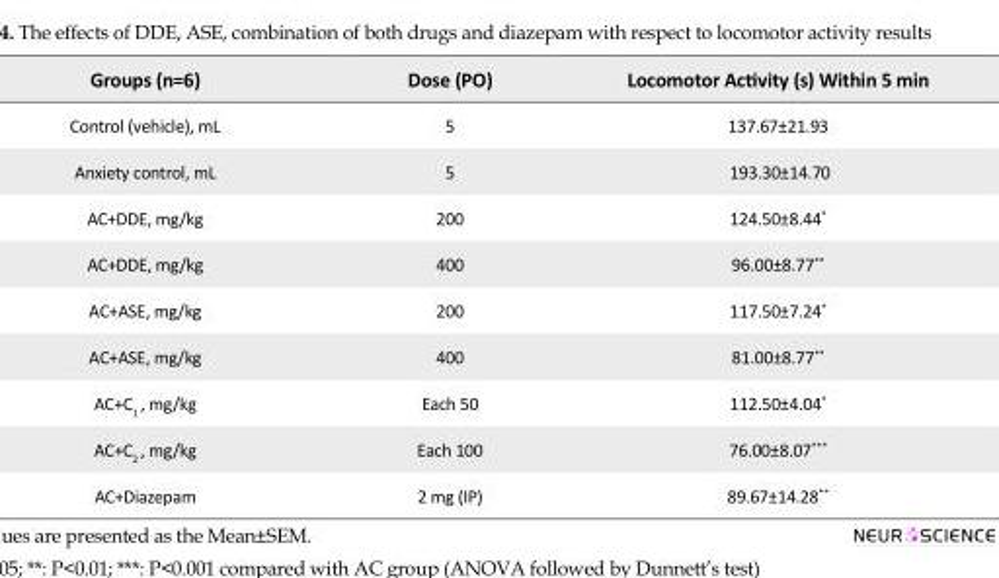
<table><thead><tr><td>Groups (n=6)</td><td>Dose (PO)</td><td>Locomotor Activity (s) Within 5 min</td></tr></thead><tbody><tr><td>Control (vehicle), mL</td><td>5</td><td>137.67±21.93</td></tr><tr><td>Anxiety control, mL</td><td>5</td><td>193.30±14.70</td></tr><tr><td>AC+DDE, mg/kg</td><td>200</td><td>124.50±8.44*</td></tr><tr><td>AC+DDE, mg/kg</td><td>400</td><td>96.00±8.77**</td></tr><tr><td>AC+ASE, mg/kg</td><td>200</td><td>117.50±7.24*</td></tr><tr><td>AC+ASE, mg/kg</td><td>400</td><td>81.00±8.77**</td></tr><tr><td>AC+C<sub>1</sub> , mg/kg</td><td>Each 50</td><td>112.50±4.04*</td></tr><tr><td>AC+C<sub>2</sub> , mg/kg</td><td>Each 100</td><td>76.00±8.07***</td></tr><tr><td>AC+Diazepam</td><td>2 mg (IP)</td><td>89.67±14.28**</td></tr></tbody></table>